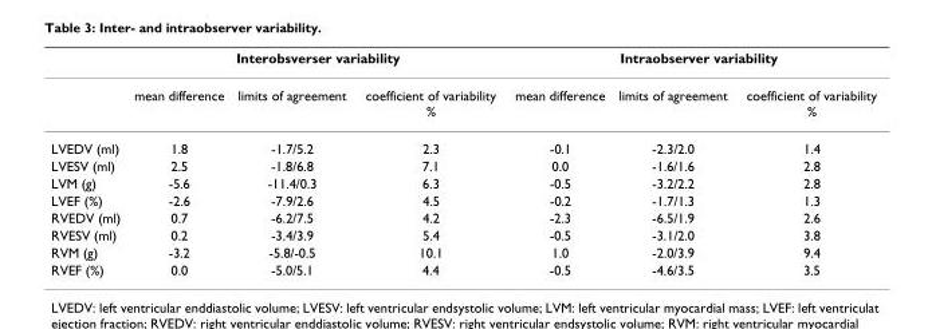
<table><thead><tr><td rowspan="2"></td><td colspan="3">Interobsverser variability</td><td colspan="3">Intraobserver variability</td></tr><tr><td>mean difference</td><td>limits of agreement</td><td>coefficient of variability %</td><td>mean difference</td><td>limits of agreement</td><td>coefficient of variability %</td></tr></thead><tbody><tr><td>LVEDV (ml)</td><td>1.8</td><td>-1.7/5.2</td><td>2.3</td><td>-0.1</td><td>-2.3/2.0</td><td>1.4</td></tr><tr><td>LVESV (ml)</td><td>2.5</td><td>-1.8/6.8</td><td>7.1</td><td>0.0</td><td>-1.6/1.6</td><td>2.8</td></tr><tr><td>LVM (g)</td><td>-5.6</td><td>-11.4/0.3</td><td>6.3</td><td>-0.5</td><td>-3.2/2.2</td><td>2.8</td></tr><tr><td>LVEF (%)</td><td>-2.6</td><td>-7.9/2.6</td><td>4.5</td><td>-0.2</td><td>-1.7/1.3</td><td>1.3</td></tr><tr><td>RVEDV (ml)</td><td>0.7</td><td>-6.2/7.5</td><td>4.2</td><td>-2.3</td><td>-6.5/1.9</td><td>2.6</td></tr><tr><td>RVESV (ml)</td><td>0.2</td><td>-3.4/3.9</td><td>5.4</td><td>-0.5</td><td>-3.1/2.0</td><td>3.8</td></tr><tr><td>RVM (g)</td><td>-3.2</td><td>-5.8/-0.5</td><td>10.1</td><td>1.0</td><td>-2.0/3.9</td><td>9.4</td></tr><tr><td>RVEF (%)</td><td>0.0</td><td>-5.0/5.1</td><td>4.4</td><td>-0.5</td><td>-4.6/3.5</td><td>3.5</td></tr></tbody></table>